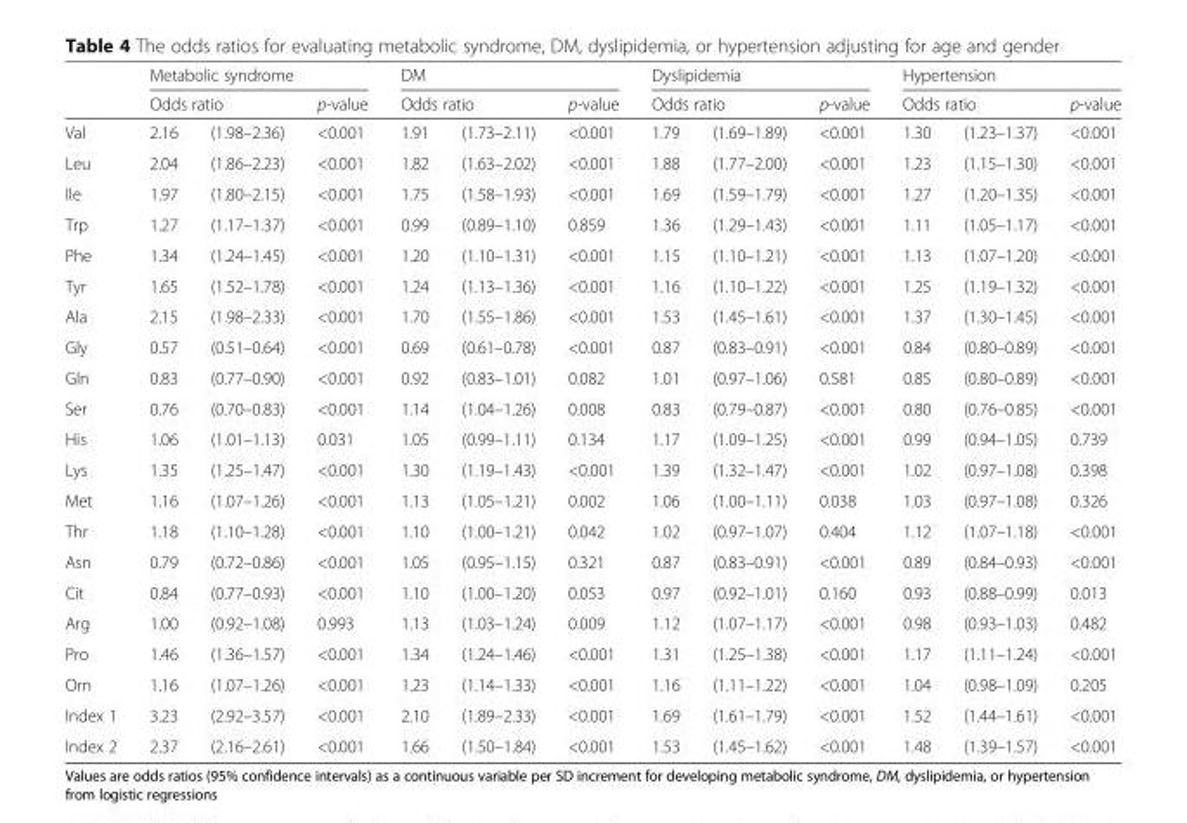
<table><thead><tr><td rowspan="3">Val</td><td colspan="3">Metabolic syndrome</td><td colspan="3">DM</td><td colspan="3">Dyslipidemia</td><td colspan="3">Hypertension</td></tr><tr><td colspan="2">Odds ratio</td><td rowspan="2">p-value &lt;0.001</td><td colspan="2">Odds ratio</td><td rowspan="2">p-value &lt;0.001</td><td colspan="2">Odds ratio</td><td rowspan="2">p-value &lt;0.001</td><td colspan="2">Odds ratio</td><td rowspan="2">p-value &lt;0.001</td></tr><tr><td>2.16</td><td>(1.98–2.36)</td><td>1.91</td><td>(1.73–2.11)</td><td>1.79</td><td>(1.69–1.89)</td><td>1.30</td><td>(1.23–1.37)</td></tr></thead><tbody><tr><td>Leu</td><td>2.04</td><td>(1.86–2.23)</td><td>&lt;0.001</td><td>1.82</td><td>(1.63–2.02)</td><td>&lt;0.001</td><td>1.88</td><td>(1.77–2.00)</td><td>&lt;0.001</td><td>1.23</td><td>(1.15–1.30)</td><td>&lt;0.001</td></tr><tr><td>Ile</td><td>1.97</td><td>(1.80–2.15)</td><td>&lt;0.001</td><td>1.75</td><td>(1.58–1.93)</td><td>&lt;0.001</td><td>1.69</td><td>(1.59–1.79)</td><td>&lt;0.001</td><td>1.27</td><td>(1.20–1.35)</td><td>&lt;0.001</td></tr><tr><td>Trp</td><td>1.27</td><td>(1.17–1.37)</td><td>&lt;0.001</td><td>0.99</td><td>(0.89–1.10)</td><td>0.859</td><td>1.36</td><td>(1.29–1.43)</td><td>&lt;0.001</td><td>1.11</td><td>(1.05–1.17)</td><td>&lt;0.001</td></tr><tr><td>Phe</td><td>1.34</td><td>(1.24–1.45)</td><td>&lt;0.001</td><td>1.20</td><td>(1.10–1.31)</td><td>&lt;0.001</td><td>1.15</td><td>(1.10–1.21)</td><td>&lt;0.001</td><td>1.13</td><td>(1.07–1.20)</td><td>&lt;0.001</td></tr><tr><td>Tyr</td><td>1.65</td><td>(1.52–1.78)</td><td>&lt;0.001</td><td>1.24</td><td>(1.13–1.36)</td><td>&lt;0.001</td><td>1.16</td><td>(1.10–1.22)</td><td>&lt;0.001</td><td>1.25</td><td>(1.19–1.32)</td><td>&lt;0.001</td></tr><tr><td>Ala</td><td>2.15</td><td>(1.98–2.33)</td><td>&lt;0.001</td><td>1.70</td><td>(1.55–1.86)</td><td>&lt;0.001</td><td>1.53</td><td>(1.45–1.61)</td><td>&lt;0.001</td><td>1.37</td><td>(1.30–1.45)</td><td>&lt;0.001</td></tr><tr><td>Gly</td><td>0.57</td><td>(0.51–0.64)</td><td>&lt;0.001</td><td>0.69</td><td>(0.61–0.78)</td><td>&lt;0.001</td><td>0.87</td><td>(0.83–0.91)</td><td>&lt;0.001</td><td>0.84</td><td>(0.80–0.89)</td><td>&lt;0.001</td></tr><tr><td>Gln</td><td>0.83</td><td>(0.77–0.90)</td><td>&lt;0.001</td><td>0.92</td><td>(0.83–1.01)</td><td>0.082</td><td>1.01</td><td>(0.97–1.06)</td><td>0.581</td><td>0.85</td><td>(0.80–0.89)</td><td>&lt;0.001</td></tr><tr><td>Ser</td><td>0.76</td><td>(0.70–0.83)</td><td>&lt;0.001</td><td>1.14</td><td>(1.04–1.26)</td><td>0.008</td><td>0.83</td><td>(0.79–0.87)</td><td>&lt;0.001</td><td>0.80</td><td>(0.76–0.85)</td><td>&lt;0.001</td></tr><tr><td>His</td><td>1.06</td><td>(1.01–1.13)</td><td>0.031</td><td>1.05</td><td>(0.99–1.11)</td><td>0.134</td><td>1.17</td><td>(1.09–1.25)</td><td>&lt;0.001</td><td>0.99</td><td>(0.94–1.05)</td><td>0.739</td></tr><tr><td>Lys</td><td>1.35</td><td>(1.25–1.47)</td><td>&lt;0.001</td><td>1.30</td><td>(1.19–1.43)</td><td>&lt;0.001</td><td>1.39</td><td>(1.32–1.47)</td><td>&lt;0.001</td><td>1.02</td><td>(0.97–1.08)</td><td>0.398</td></tr><tr><td>Met</td><td>1.16</td><td>(1.07–1.26)</td><td>&lt;0.001</td><td>1.13</td><td>(1.05–1.21)</td><td>0.002</td><td>1.06</td><td>(1.00–1.11)</td><td>0.038</td><td>1.03</td><td>(0.97–1.08)</td><td>0.326</td></tr><tr><td>Thr</td><td>1.18</td><td>(1.10–1.28)</td><td>&lt;0.001</td><td>1.10</td><td>(1.00–1.21)</td><td>0.042</td><td>1.02</td><td>(0.97–1.07)</td><td>0.404</td><td>1.12</td><td>(1.07–1.18)</td><td>&lt;0.001</td></tr><tr><td>Asn</td><td>0.79</td><td>(0.72–0.86)</td><td>&lt;0.001</td><td>1.05</td><td>(0.95–1.15)</td><td>0.321</td><td>0.87</td><td>(0.83–0.91)</td><td>&lt;0.001</td><td>0.89</td><td>(0.84–0.93)</td><td>&lt;0.001</td></tr><tr><td>Cit</td><td>0.84</td><td>(0.77–0.93)</td><td>&lt;0.001</td><td>1.10</td><td>(1.00–1.20)</td><td>0.053</td><td>0.97</td><td>(0.92–1.01)</td><td>0.160</td><td>0.93</td><td>(0.88–0.99)</td><td>0.013</td></tr><tr><td>Arg</td><td>1.00</td><td>(0.92–1.08)</td><td>0.993</td><td>1.13</td><td>(1.03–1.24)</td><td>0.009</td><td>1.12</td><td>(1.07–1.17)</td><td>&lt;0.001</td><td>0.98</td><td>(0.93–1.03)</td><td>0.482</td></tr><tr><td>Pro</td><td>1.46</td><td>(1.36–1.57)</td><td>&lt;0.001</td><td>1.34</td><td>(1.24–1.46)</td><td>&lt;0.001</td><td>1.31</td><td>(1.25–1.38)</td><td>&lt;0.001</td><td>1.17</td><td>(1.11–1.24)</td><td>&lt;0.001</td></tr><tr><td>Orn</td><td>1.16</td><td>(1.07–1.26)</td><td>&lt;0.001</td><td>1.23</td><td>(1.14–1.33)</td><td>&lt;0.001</td><td>1.16</td><td>(1.11–1.22)</td><td>&lt;0.001</td><td>1.04</td><td>(0.98–1.09)</td><td>0.205</td></tr><tr><td>Index 1</td><td>3.23</td><td>(2.92–3.57)</td><td>&lt;0.001</td><td>2.10</td><td>(1.89–2.33)</td><td>&lt;0.001</td><td>1.69</td><td>(1.61–1.79)</td><td>&lt;0.001</td><td>1.52</td><td>(1.44–1.61)</td><td>&lt;0.001</td></tr><tr><td>Index 2</td><td>2.37</td><td>(2.16–2.61)</td><td>&lt;0.001</td><td>1.66</td><td>(1.50–1.84)</td><td>&lt;0.001</td><td>1.53</td><td>(1.45–1.62)</td><td>&lt;0.001</td><td>1.48</td><td>(1.39–1.57)</td><td>&lt;0.001</td></tr></tbody></table>